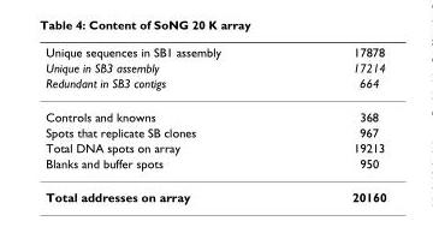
<table><thead><tr><td rowspan="3">Unique sequences in SB1 assembly Unique in SB3 assembly Redundant in SB3 contigs</td><td rowspan="3">17878 17214 664</td></tr><tr></tr><tr></tr></thead><tbody><tr><td>Controls and knowns</td><td>368</td></tr><tr><td>Spots that replicate SB clones</td><td>967</td></tr><tr><td>Total DNA spots on array</td><td>19213</td></tr><tr><td>Blanks and buffer spots</td><td>950</td></tr><tr><td>Total addresses on array</td><td>20160</td></tr></tbody></table>